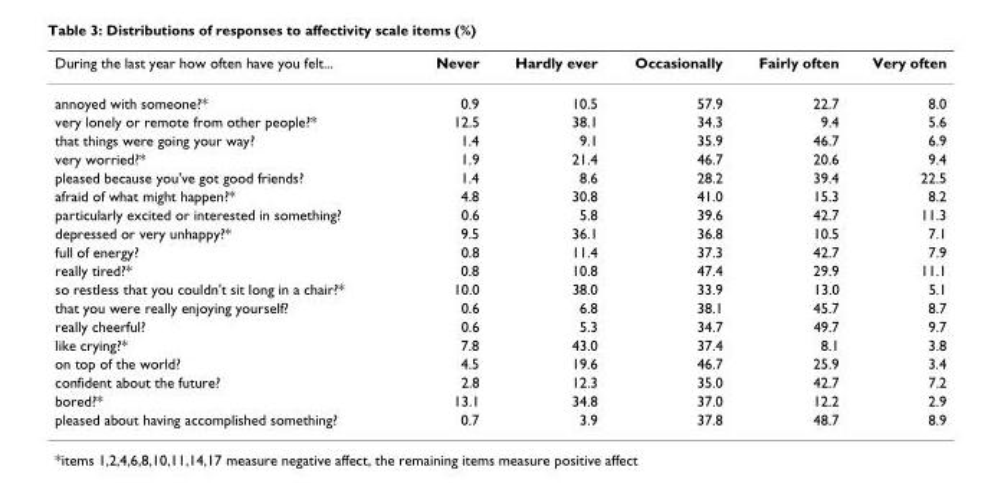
<table><thead><tr><td>During the last year how often have you felt...</td><td>Never</td><td>Hardly ever</td><td>Occasionally</td><td>Fairly often</td><td>Very often</td></tr></thead><tbody><tr><td>annoyed with someone?*</td><td>0.9</td><td>10.5</td><td>57.9</td><td>22.7</td><td>8.0</td></tr><tr><td>very lonely or remote from other people?*</td><td>12.5</td><td>38.1</td><td>34.3</td><td>9.4</td><td>5.6</td></tr><tr><td>that things were going your way?</td><td>1.4</td><td>9.1</td><td>35.9</td><td>46.7</td><td>6.9</td></tr><tr><td>very worried?*</td><td>1.9</td><td>21.4</td><td>46.7</td><td>20.6</td><td>9.4</td></tr><tr><td>pleased because you&#x27;ve got good friends?</td><td>1.4</td><td>8.6</td><td>28.2</td><td>39.4</td><td>22.5</td></tr><tr><td>afraid of what might happen?*</td><td>4.8</td><td>30.8</td><td>41.0</td><td>15.3</td><td>8.2</td></tr><tr><td>particularly excited or interested in something?</td><td>0.6</td><td>5.8</td><td>39.6</td><td>42.7</td><td>11.3</td></tr><tr><td>depressed or very unhappy?*</td><td>9.5</td><td>36.1</td><td>36.8</td><td>10.5</td><td>7.1</td></tr><tr><td>full of energy?</td><td>0.8</td><td>11.4</td><td>37.3</td><td>42.7</td><td>7.9</td></tr><tr><td>really tired?*</td><td>0.8</td><td>10.8</td><td>47.4</td><td>29.9</td><td>11.1</td></tr><tr><td>so restless that you couldn&#x27;t sit long in a chair?*</td><td>10.0</td><td>38.0</td><td>33.9</td><td>13.0</td><td>5.1</td></tr><tr><td>that you were really enjoying yourself?</td><td>0.6</td><td>6.8</td><td>38.1</td><td>45.7</td><td>8.7</td></tr><tr><td>really cheerful?</td><td>0.6</td><td>5.3</td><td>34.7</td><td>49.7</td><td>9.7</td></tr><tr><td>like crying?*</td><td>7.8</td><td>43.0</td><td>37.4</td><td>8.1</td><td>3.8</td></tr><tr><td>on top of the world?</td><td>4.5</td><td>19.6</td><td>46.7</td><td>25.9</td><td>3.4</td></tr><tr><td>confident about the future?</td><td>2.8</td><td>12.3</td><td>35.0</td><td>42.7</td><td>7.2</td></tr><tr><td>bored?*</td><td>13.1</td><td>34.8</td><td>37.0</td><td>12.2</td><td>2.9</td></tr><tr><td>pleased about having accomplished something?</td><td>0.7</td><td>3.9</td><td>37.8</td><td>48.7</td><td>8.9</td></tr></tbody></table>